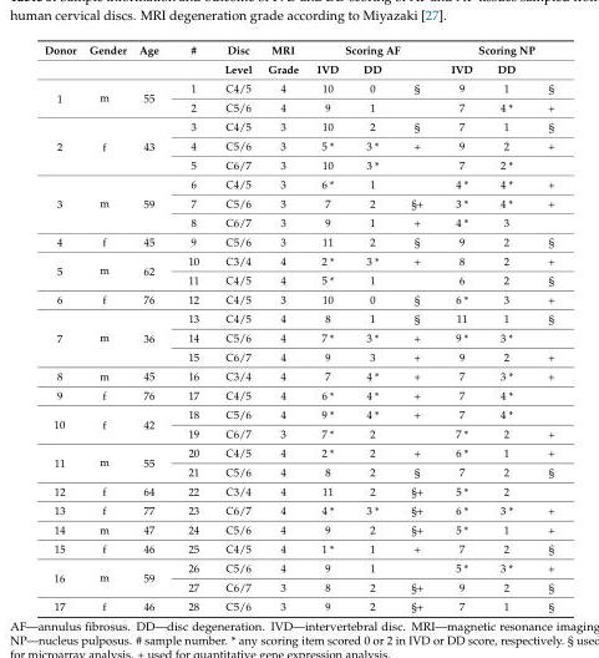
<table><thead><tr><td rowspan="2">Donor</td><td rowspan="2">Gender</td><td rowspan="2">Age</td><td rowspan="2">#</td><td rowspan="2">Disc Level</td><td rowspan="2">MRI Grade</td><td colspan="3">Scoring AF</td><td colspan="3">Scoring NP</td></tr><tr><td>IVD</td><td>DD</td><td></td><td>IVD</td><td>DD</td><td></td></tr></thead><tbody><tr><td rowspan="2">1</td><td rowspan="2">m</td><td rowspan="2">55</td><td>1</td><td>C4/5</td><td>4</td><td>10</td><td>0</td><td>§</td><td>9</td><td>1</td><td>§</td></tr><tr><td>2</td><td>C5/6</td><td>4</td><td>9</td><td>1</td><td></td><td>7</td><td>4 *</td><td>+</td></tr><tr><td rowspan="3">2</td><td rowspan="3">f</td><td rowspan="3">43</td><td>3</td><td>C4/5</td><td>3</td><td>10</td><td>2</td><td>§</td><td>7</td><td>1</td><td>§</td></tr><tr><td>4</td><td>C5/6</td><td>3</td><td>5 *</td><td>3 *</td><td>+</td><td>9</td><td>2</td><td>+</td></tr><tr><td>5</td><td>C6/7</td><td>3</td><td>10</td><td>3 *</td><td></td><td>7</td><td>2 *</td><td></td></tr><tr><td rowspan="3">3</td><td rowspan="3">m</td><td rowspan="3">59</td><td>6</td><td>C4/5</td><td>3</td><td>6 *</td><td>1</td><td></td><td>4 *</td><td>4 *</td><td>+</td></tr><tr><td>7</td><td>C5/6</td><td>3</td><td>7</td><td>2</td><td>§+</td><td>3 *</td><td>4 *</td><td>+</td></tr><tr><td>8</td><td>C6/7</td><td>3</td><td>9</td><td>1</td><td>+</td><td>4 *</td><td>3</td><td></td></tr><tr><td>4</td><td>f</td><td>45</td><td>9</td><td>C5/6</td><td>3</td><td>11</td><td>2</td><td>§</td><td>9</td><td>2</td><td>§</td></tr><tr><td rowspan="2">5</td><td rowspan="2">m</td><td rowspan="2">62</td><td>10</td><td>C3/4</td><td>4</td><td>2 *</td><td>3 *</td><td>+</td><td>8</td><td>2</td><td>+</td></tr><tr><td>11</td><td>C4/5</td><td>4</td><td>5 *</td><td>1</td><td></td><td>6</td><td>2</td><td>§</td></tr><tr><td>6</td><td>f</td><td>76</td><td>12</td><td>C4/5</td><td>3</td><td>10</td><td>0</td><td>§</td><td>6 *</td><td>3</td><td>+</td></tr><tr><td rowspan="3">7</td><td rowspan="3">m</td><td rowspan="3">36</td><td>13</td><td>C4/5</td><td>4</td><td>8</td><td>1</td><td>§</td><td>11</td><td>1</td><td>§</td></tr><tr><td>14</td><td>C5/6</td><td>4</td><td>7 *</td><td>3 *</td><td>+</td><td>9 *</td><td>3 *</td><td></td></tr><tr><td>15</td><td>C6/7</td><td>4</td><td>9</td><td>3</td><td>+</td><td>9</td><td>2</td><td>+</td></tr><tr><td>8</td><td>m</td><td>45</td><td>16</td><td>C3/4</td><td>4</td><td>7</td><td>4 *</td><td>+</td><td>7</td><td>3 *</td><td>+</td></tr><tr><td>9</td><td>f</td><td>76</td><td>17</td><td>C4/5</td><td>4</td><td>6 *</td><td>4 *</td><td>+</td><td>7</td><td>4 *</td><td></td></tr><tr><td rowspan="2">10</td><td rowspan="2">f</td><td rowspan="2">42</td><td>18</td><td>C5/6</td><td>4</td><td>9 *</td><td>4 *</td><td>+</td><td>7</td><td>4 *</td><td></td></tr><tr><td>19</td><td>C6/7</td><td>3</td><td>7 *</td><td>2</td><td></td><td>7 *</td><td>2</td><td>+</td></tr><tr><td rowspan="2">11</td><td rowspan="2">m</td><td rowspan="2">55</td><td>20</td><td>C4/5</td><td>4</td><td>2 *</td><td>2</td><td>+</td><td>6 *</td><td>1</td><td>+</td></tr><tr><td>21</td><td>C5/6</td><td>4</td><td>8</td><td>2</td><td>§</td><td>7</td><td>2</td><td>§</td></tr><tr><td>12</td><td>f</td><td>64</td><td>22</td><td>C3/4</td><td>4</td><td>11</td><td>2</td><td>§+</td><td>5 *</td><td>2</td><td></td></tr><tr><td>13</td><td>f</td><td>77</td><td>23</td><td>C6/7</td><td>4</td><td>4 *</td><td>3 *</td><td>§+</td><td>6 *</td><td>3 *</td><td>+</td></tr><tr><td>14</td><td>m</td><td>47</td><td>24</td><td>C5/6</td><td>4</td><td>9</td><td>2</td><td>§+</td><td>5 *</td><td>1</td><td>+</td></tr><tr><td>15</td><td>f</td><td>46</td><td>25</td><td>C4/5</td><td>4</td><td>1 *</td><td>1</td><td>+</td><td>7</td><td>2</td><td>§</td></tr><tr><td rowspan="2">16</td><td rowspan="2">m</td><td rowspan="2">59</td><td>26</td><td>C5/6</td><td>4</td><td>9</td><td>1</td><td></td><td>5 *</td><td>3 *</td><td>+</td></tr><tr><td>27</td><td>C6/7</td><td>3</td><td>8</td><td>2</td><td>§+</td><td>9</td><td>2</td><td>§</td></tr><tr><td>17</td><td>f</td><td>46</td><td>28</td><td>C5/6</td><td>3</td><td>9</td><td>2</td><td>§+</td><td>7</td><td>1</td><td>§</td></tr></tbody></table>